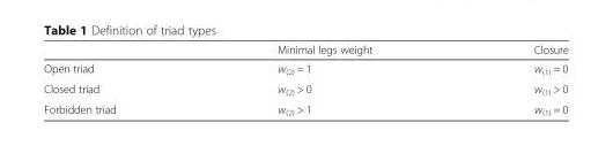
<table><thead><tr><td></td><td>Minimal legs weight</td><td>Closure</td></tr></thead><tbody><tr><td>Open triad</td><td>w<sub>(2)</sub> = 1</td><td>w<sub>(1)</sub> = 0</td></tr><tr><td>Closed triad</td><td>w<sub>(2)</sub> &gt; 0</td><td>w<sub>(1)</sub> &gt; 0</td></tr><tr><td>Forbidden triad</td><td>w<sub>(2)</sub> &gt; 1</td><td>w<sub>(1)</sub> = 0</td></tr></tbody></table>